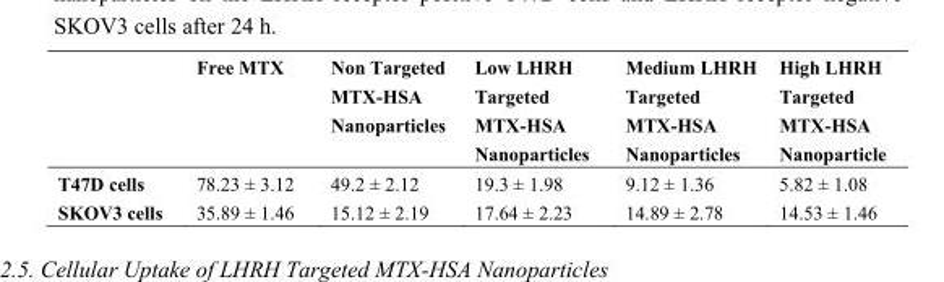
<table><thead><tr><td></td><td>Free MTX</td><td>Non Targeted MTX-HSA Nanoparticles</td><td>Low LHRH Targeted MTX-HSA Nanoparticles</td><td>Medium LHRH Targeted MTX-HSA Nanoparticles</td><td>High LHRH Targeted MTX-HSA Nanoparticle</td></tr></thead><tbody><tr><td>T47D cells</td><td>78.23 ± 3.12</td><td>49.2 ± 2.12</td><td>19.3 ± 1.98</td><td>9.12 ± 1.36</td><td>5.82 ± 1.08</td></tr><tr><td>SKOV3 cells</td><td>35.89 ± 1.46</td><td>15.12 ± 2.19</td><td>17.64 ± 2.23</td><td>14.89 ± 2.78</td><td>14.53 ± 1.46</td></tr></tbody></table>